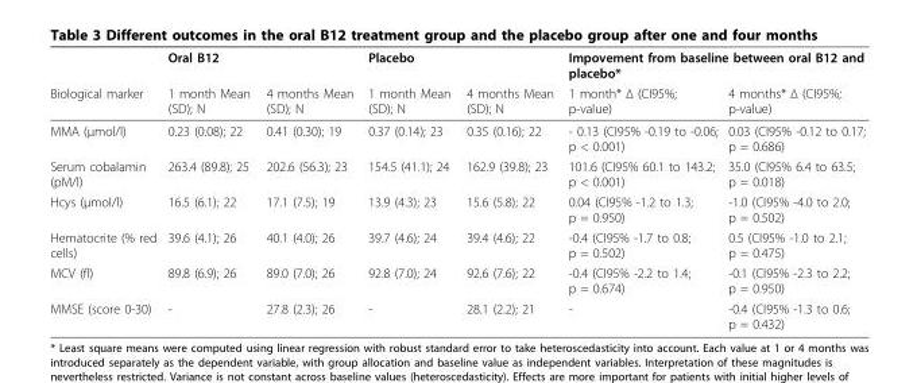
<table><thead><tr><td rowspan="2">Biological marker</td><td colspan="2">Oral B12</td><td colspan="2">Placebo</td><td colspan="2">Impovement from baseline between oral B12 and placebo*</td></tr><tr><td>1 month Mean (SD); N</td><td>4 months Mean (SD); N</td><td>1 month Mean (SD); N</td><td>4 months Mean (SD); N</td><td>1 month* Δ (CI95%; p-value)</td><td>4 months* Δ (CI95%; p-value)</td></tr></thead><tbody><tr><td>MMA (μmol/l)</td><td>0.23 (0.08); 22</td><td>0.41 (0.30); 19</td><td>0.37 (0.14); 23</td><td>0.35 (0.16); 22</td><td>- 0.13 (CI95% -0.19 to -0.06; p &lt; 0.001)</td><td>0.03 (CI95% -0.12 to 0.17; p = 0.686)</td></tr><tr><td>Serum cobalamin (pM/l)</td><td>263.4 (89.8); 25</td><td>202.6 (56.3); 23</td><td>154.5 (41.1); 24</td><td>162.9 (39.8); 23</td><td>101.6 (CI95% 60.1 to 143.2; p &lt; 0.001)</td><td>35.0 (CI95% 6.4 to 63.5; p = 0.018)</td></tr><tr><td>Hcys (μmol/l)</td><td>16.5 (6.1); 22</td><td>17.1 (7.5); 19</td><td>13.9 (4.3); 23</td><td>15.6 (5.8); 22</td><td>0.04 (CI95% -1.2 to 1.3; p = 0.950)</td><td>-1.0 (CI95% -4.0 to 2.0; p = 0.502)</td></tr><tr><td>Hematocrite (% red cells)</td><td>39.6 (4.1); 26</td><td>40.1 (4.0); 26</td><td>39.7 (4.6); 24</td><td>39.4 (4.6); 22</td><td>-0.4 (CI95% -1.7 to 0.8; p = 0.502)</td><td>0.5 (CI95% -1.0 to 2.1; p = 0.475)</td></tr><tr><td>MCV (fl)</td><td>89.8 (6.9); 26</td><td>89.0 (7.0); 26</td><td>92.8 (7.0); 24</td><td>92.6 (7.6); 22</td><td>-0.4 (CI95% -2.2 to 1.4; p = 0.674)</td><td>-0.1 (CI95% -2.3 to 2.2; p = 0.950)</td></tr><tr><td>MMSE (score 0-30)</td><td>-</td><td>27.8 (2.3); 26</td><td>-</td><td>28.1 (2.2); 21</td><td>-</td><td>-0.4 (CI95% -1.3 to 0.6; p = 0.432)</td></tr></tbody></table>